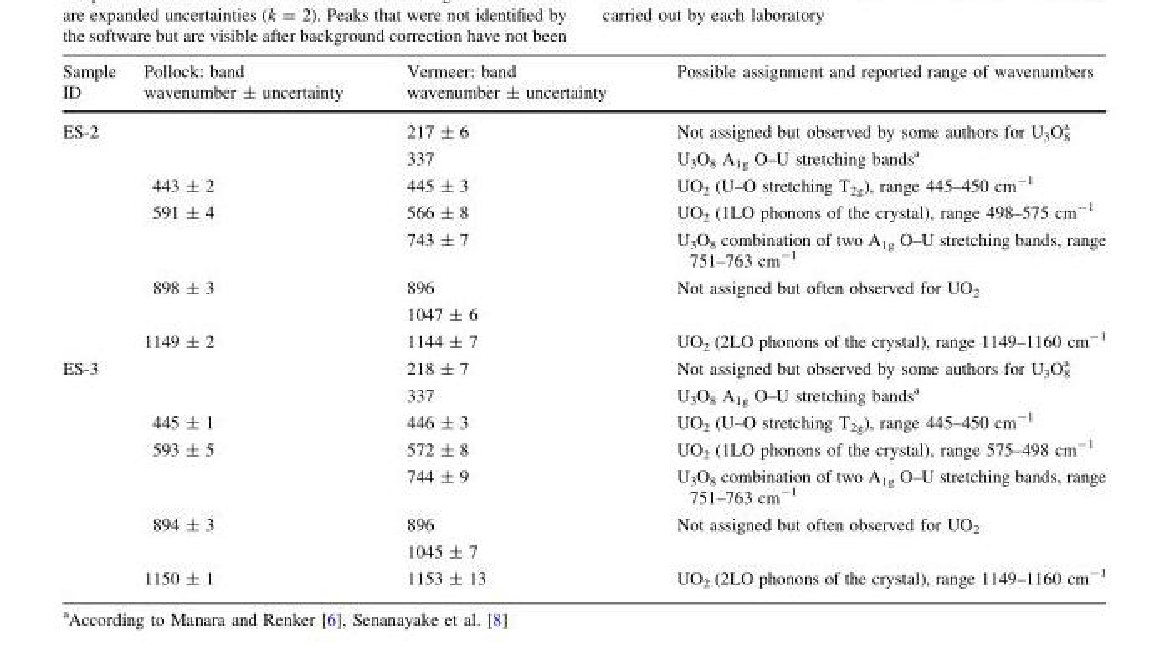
<table><thead><tr><td>Sample ID</td><td>Pollock: band wavenumber ± uncertainty</td><td>Vermeer: band wavenumber ± uncertainty</td><td>Possible assignment and reported range of wavenumbers</td></tr></thead><tbody><tr><td rowspan="8">ES-2</td><td></td><td>217 ± 6</td><td>Not assigned but observed by some authors for U<sub>3</sub>O<sub>8</sub> <sup>a</sup></td></tr><tr><td></td><td>337</td><td>U<sub>3</sub>O<sub>8</sub> A<sub>1g</sub> O–U stretching bands<sup>a</sup></td></tr><tr><td>443 ± 2</td><td>445 ± 3</td><td>UO<sub>2</sub> (U–O stretching T<sub>2g</sub>), range 445–450 cm<sup>-1</sup></td></tr><tr><td>591 ± 4</td><td>566 ± 8</td><td>UO<sub>2</sub> (1LO phonons of the crystal), range 498–575 cm<sup>-1</sup></td></tr><tr><td></td><td>743 ± 7</td><td>U<sub>3</sub>O<sub>8</sub> combination of two A<sub>1g</sub> O–U stretching bands, range 751–763 cm<sup>-1</sup></td></tr><tr><td>898 ± 3</td><td>896</td><td>Not assigned but often observed for UO<sub>2</sub></td></tr><tr><td></td><td>1047 ± 6</td><td></td></tr><tr><td>1149 ± 2</td><td>1144 ± 7</td><td>UO<sub>2</sub> (2LO phonons of the crystal), range 1149–1160 cm<sup>-1</sup></td></tr><tr><td rowspan="8">ES-3</td><td></td><td>218 ± 7</td><td>Not assigned but observed by some authors for U<sub>3</sub>O<sub>8</sub> <sup>a</sup></td></tr><tr><td></td><td>337</td><td>U<sub>3</sub>O<sub>8</sub> A<sub>1g</sub> O–U stretching bands<sup>a</sup></td></tr><tr><td>445 ± 1</td><td>446 ± 3</td><td>UO<sub>2</sub> (U–O stretching T<sub>2g</sub>), range 445–450 cm<sup>-1</sup></td></tr><tr><td>593 ± 5</td><td>572 ± 8</td><td>UO<sub>2</sub> (1LO phonons of the crystal), range 575–498 cm<sup>-1</sup></td></tr><tr><td></td><td>744 ± 9</td><td>U<sub>3</sub>O<sub>8</sub> combination of two A<sub>1g</sub> O–U stretching bands, range 751–763 cm<sup>-1</sup></td></tr><tr><td>894 ± 3</td><td>896</td><td>Not assigned but often observed for UO<sub>2</sub></td></tr><tr><td></td><td>1045 ± 7</td><td></td></tr><tr><td>1150 ± 1</td><td>1153 ± 13</td><td>UO<sub>2</sub> (2LO phonons of the crystal), range 1149–1160 cm<sup>-1</sup></td></tr></tbody></table>